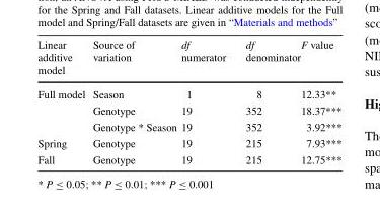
<table><thead><tr><td>Linear additive model</td><td>Source of variation</td><td>df numerator</td><td>df denominator</td><td>F value</td></tr></thead><tbody><tr><td rowspan="3">Full model</td><td>Season</td><td>1</td><td>8</td><td>12.33**</td></tr><tr><td>Genotype</td><td>19</td><td>352</td><td>18.37***</td></tr><tr><td>Genotype * Season</td><td>19</td><td>352</td><td>3.92***</td></tr><tr><td>Spring</td><td>Genotype</td><td>19</td><td>215</td><td>7.93***</td></tr><tr><td>Fall</td><td>Genotype</td><td>19</td><td>215</td><td>12.75***</td></tr></tbody></table>